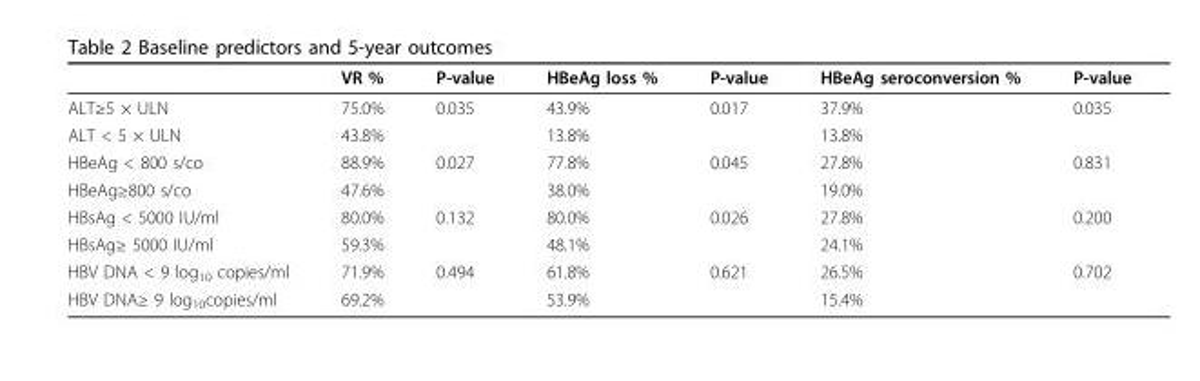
<table><thead><tr><td></td><td>VR %</td><td>P-value</td><td>HBeAg loss %</td><td>P-value</td><td>HBeAg seroconversion %</td><td>P-value</td></tr></thead><tbody><tr><td>ALT≥5 × ULN</td><td>75.0%</td><td>0.035</td><td>43.9%</td><td>0.017</td><td>37.9%</td><td>0.035</td></tr><tr><td>ALT &lt; 5 × ULN</td><td>43.8%</td><td></td><td>13.8%</td><td></td><td>13.8%</td><td></td></tr><tr><td>HBeAg &lt; 800 s/co</td><td>88.9%</td><td>0.027</td><td>77.8%</td><td>0.045</td><td>27.8%</td><td>0.831</td></tr><tr><td>HBeAg≥800 s/co</td><td>47.6%</td><td></td><td>38.0%</td><td></td><td>19.0%</td><td></td></tr><tr><td>HBsAg &lt; 5000 IU/ml</td><td>80.0%</td><td>0.132</td><td>80.0%</td><td>0.026</td><td>27.8%</td><td>0.200</td></tr><tr><td>HBsAg≥ 5000 IU/ml</td><td>59.3%</td><td></td><td>48.1%</td><td></td><td>24.1%</td><td></td></tr><tr><td>HBV DNA &lt; 9 log<sub>10</sub> copies/ml</td><td>71.9%</td><td>0.494</td><td>61.8%</td><td>0.621</td><td>26.5%</td><td>0.702</td></tr><tr><td>HBV DNA≥ 9 log<sub>10</sub>copies/ml</td><td>69.2%</td><td></td><td>53.9%</td><td></td><td>15.4%</td><td></td></tr></tbody></table>